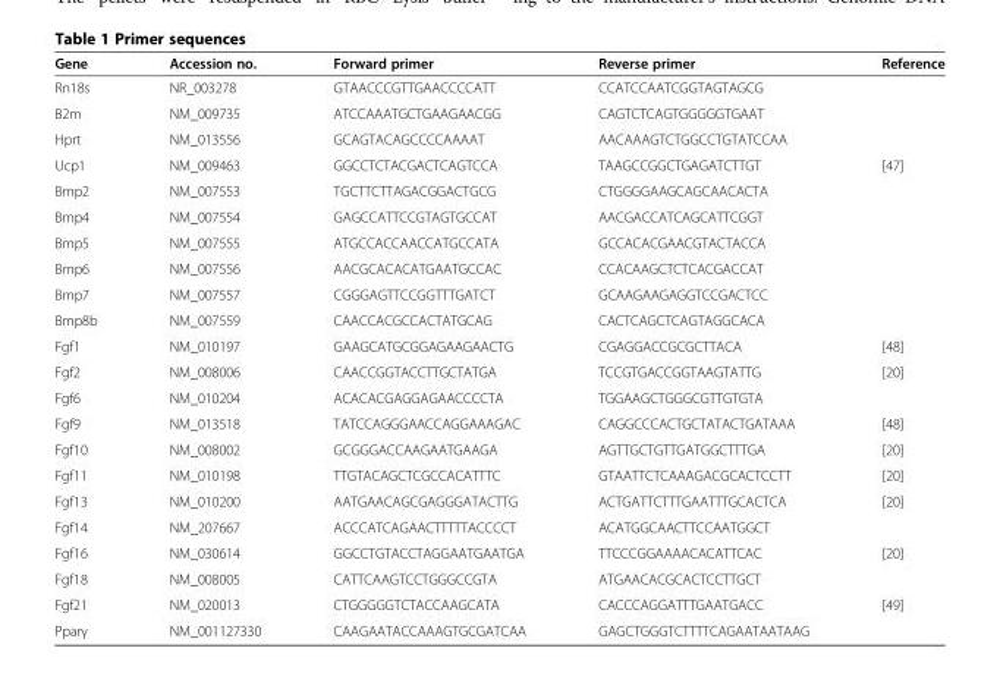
<table><thead><tr><td>Gene</td><td>Accession no.</td><td>Forward primer</td><td>Reverse primer</td><td>Reference</td></tr></thead><tbody><tr><td>Rn18s</td><td>NR_003278</td><td>GTAACCCGTTGAACCCCATT</td><td>CCATCCAATCGGTAGTAGCG</td><td></td></tr><tr><td>B2m</td><td>NM_009735</td><td>ATCCAAATGCTGAAGAACGG</td><td>CAGTCTCAGTGGGGGTGAAT</td><td></td></tr><tr><td>Hprt</td><td>NM_013556</td><td>GCAGTACAGCCCCAAAAT</td><td>AACAAAGTCTGGCCTGTATCCAA</td><td></td></tr><tr><td>Ucp1</td><td>NM_009463</td><td>GGCCTCTACGACTCAGTCCA</td><td>TAAGCCGGCTGAGATCTTGT</td><td>[47]</td></tr><tr><td>Bmp2</td><td>NM_007553</td><td>TGCTTCTTAGACGGACTGCG</td><td>CTGGGGAAGCAGCAACACTA</td><td></td></tr><tr><td>Bmp4</td><td>NM_007554</td><td>GAGCCATTCCGTAGTGCCAT</td><td>AACGACCATCAGCATTCGGT</td><td></td></tr><tr><td>Bmp5</td><td>NM_007555</td><td>ATGCCACCAACCATGCCATA</td><td>GCCACACGAACGTACTACCA</td><td></td></tr><tr><td>Bmp6</td><td>NM_007556</td><td>AACGCACACATGAATGCCAC</td><td>CCACAAGCTCTCACGACCAT</td><td></td></tr><tr><td>Bmp7</td><td>NM_007557</td><td>CGGGAGTTCCGGTTTGATCT</td><td>GCAAGAAGAGGTCCGACTCC</td><td></td></tr><tr><td>Bmp8b</td><td>NM_007559</td><td>CAACCACGCCACTATGCAG</td><td>CACTCAGCTCAGTAGGCACA</td><td></td></tr><tr><td>Fgf1</td><td>NM_010197</td><td>GAAGCATGCGGAGAAGAACTG</td><td>CGAGGACCGCGCTTACA</td><td>[48]</td></tr><tr><td>Fgf2</td><td>NM_008006</td><td>CAACCGGTACCTTGCTATGA</td><td>TCCGTGACCGGTAAGTATTG</td><td>[20]</td></tr><tr><td>Fgf6</td><td>NM_010204</td><td>ACACACGAGGAGAACCCCTA</td><td>TGGAAGCTGGGCGTTGTGTA</td><td></td></tr><tr><td>Fgf9</td><td>NM_013518</td><td>TATCCAGGGAACCAGGAAAGAC</td><td>CAGGCCCACTGCTATACTGATAAA</td><td>[48]</td></tr><tr><td>Fgf10</td><td>NM_008002</td><td>GCGGGACCAAGAATGAAGA</td><td>AGTTGCTGTTGATGGCTTTGA</td><td>[20]</td></tr><tr><td>Fgf11</td><td>NM_010198</td><td>TTGTACAGCTCGCCACATTTC</td><td>GTAATTCTCAAAGACGCACTCCTT</td><td>[20]</td></tr><tr><td>Fgf13</td><td>NM_010200</td><td>AATGAACAGCGAGGGATACTTG</td><td>ACTGATTCTTTGAATTTGCACTCA</td><td>[20]</td></tr><tr><td>Fgf14</td><td>NM_207667</td><td>ACCCATCAGAACTTTTTACCCCT</td><td>ACATGGCAACTTCCAATGGCT</td><td></td></tr><tr><td>Fgf16</td><td>NM_030614</td><td>GGCCTGTACCTAGGAATGAATGA</td><td>TTCCCGGAAAACACATTCAC</td><td>[20]</td></tr><tr><td>Fgf18</td><td>NM_008005</td><td>CATTCAAGTCCTGGGCCGTA</td><td>ATGAACACGCACTCCTTGCT</td><td></td></tr><tr><td>Fgf21</td><td>NM_020013</td><td>CTGGGGGTCTACCAAGCATA</td><td>CACCCAGGATTTGAATGACC</td><td>[49]</td></tr><tr><td>Pparγ</td><td>NM_001127330</td><td>CAAGAATACCAAAGTGCGATCAA</td><td>GAGCTGGGTCTTTTCAGAATAATAAG</td><td></td></tr></tbody></table>